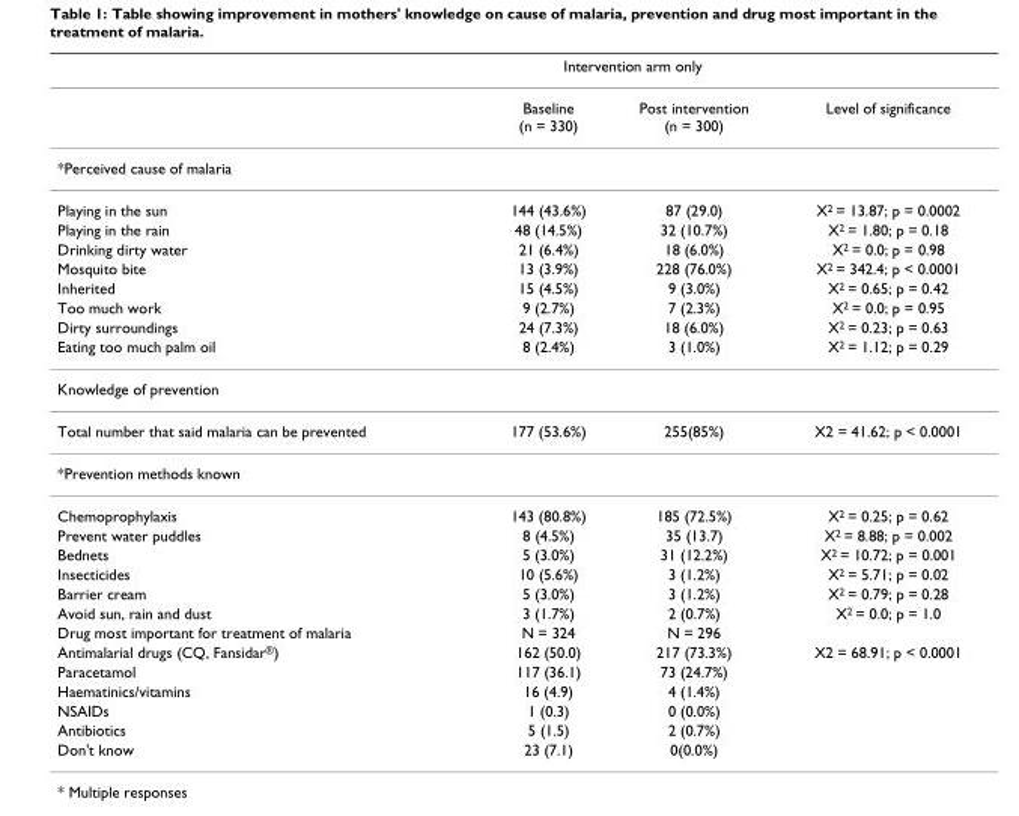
<table><thead><tr><td rowspan="2"></td><td colspan="2">Intervention arm only</td><td rowspan="2">Level of significance</td></tr><tr><td>Baseline (n = 330)</td><td>Post intervention (n = 300)</td></tr></thead><tbody><tr><td colspan="4">*Perceived cause of malaria</td></tr><tr><td>Playing in the sun</td><td>144 (43.6%)</td><td>87 (29.0)</td><td>X<sup>2</sup> = 13.87; p = 0.0002</td></tr><tr><td>Playing in the rain</td><td>48 (14.5%)</td><td>32 (10.7%)</td><td>X<sup>2</sup> = 1.80; p = 0.18</td></tr><tr><td>Drinking dirty water</td><td>21 (6.4%)</td><td>18 (6.0%)</td><td>X<sup>2</sup> = 0.0; p = 0.98</td></tr><tr><td>Mosquito bite</td><td>13 (3.9%)</td><td>228 (76.0%)</td><td>X<sup>2</sup> = 342.4; p &lt; 0.0001</td></tr><tr><td>Inherited</td><td>15 (4.5%)</td><td>9 (3.0%)</td><td>X<sup>2</sup> = 0.65; p = 0.42</td></tr><tr><td>Too much work</td><td>9 (2.7%)</td><td>7 (2.3%)</td><td>X<sup>2</sup> = 0.0; p = 0.95</td></tr><tr><td>Dirty surroundings</td><td>24 (7.3%)</td><td>18 (6.0%)</td><td>X<sup>2</sup> = 0.23; p = 0.63</td></tr><tr><td>Eating too much palm oil</td><td>8 (2.4%)</td><td>3 (1.0%)</td><td>X<sup>2</sup> = 1.12; p = 0.29</td></tr><tr><td colspan="4">Knowledge of prevention</td></tr><tr><td>Total number that said malaria can be prevented</td><td>177 (53.6%)</td><td>255(85%)</td><td>X2 = 41.62; p &lt; 0.0001</td></tr><tr><td colspan="4">*Prevention methods known</td></tr><tr><td>Chemoprophylaxis</td><td>143 (80.8%)</td><td>185 (72.5%)</td><td>X<sup>2</sup> = 0.25; p = 0.62</td></tr><tr><td>Prevent water puddles</td><td>8 (4.5%)</td><td>35 (13.7)</td><td>X<sup>2</sup> = 8.88; p = 0.002</td></tr><tr><td>Bednets</td><td>5 (3.0%)</td><td>31 (12.2%)</td><td>X<sup>2</sup> = 10.72; p = 0.001</td></tr><tr><td>Insecticides</td><td>10 (5.6%)</td><td>3 (1.2%)</td><td>X<sup>2</sup> = 5.71; p = 0.02</td></tr><tr><td>Barrier cream</td><td>5 (3.0%)</td><td>3 (1.2%)</td><td>X<sup>2</sup> = 0.79; p = 0.28</td></tr><tr><td>Avoid sun, rain and dust</td><td>3 (1.7%)</td><td>2 (0.7%)</td><td>X<sup>2</sup> = 0.0; p = 1.0</td></tr><tr><td>Drug most important for treatment of malaria</td><td>N = 324</td><td>N = 296</td><td></td></tr><tr><td>Antimalarial drugs (CQ, Fansidar<sup>®</sup>)</td><td>162 (50.0)</td><td>217 (73.3%)</td><td>X2 = 68.91; p &lt; 0.0001</td></tr><tr><td>Paracetamol</td><td>117 (36.1)</td><td>73 (24.7%)</td><td></td></tr><tr><td>Haematinics/vitamins</td><td>16 (4.9)</td><td>4 (1.4%)</td><td></td></tr><tr><td>NSAIDs</td><td>1 (0.3)</td><td>0 (0.0%)</td><td></td></tr><tr><td>Antibiotics</td><td>5 (1.5)</td><td>2 (0.7%)</td><td></td></tr><tr><td>Don&#x27;t know</td><td>23 (7.1)</td><td>0(0.0%)</td><td></td></tr></tbody></table>